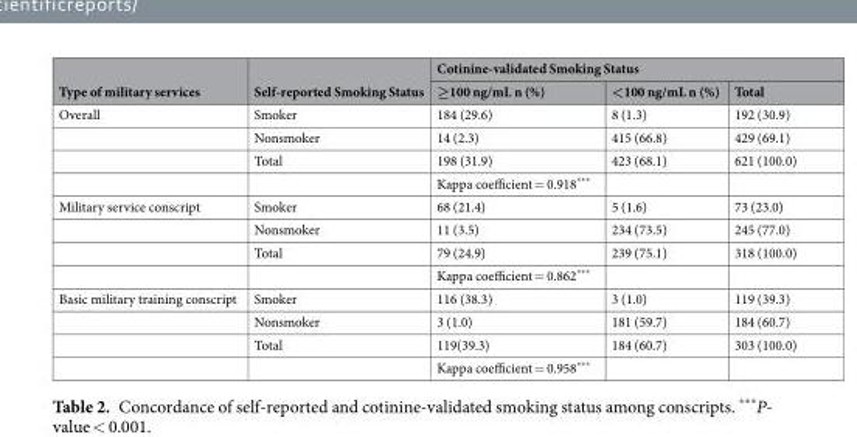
<table><thead><tr><td rowspan="2">Type of military services</td><td rowspan="2">Self-reported Smoking Status</td><td colspan="3">Cotinine-validated Smoking Status</td></tr><tr><td>≥100 ng/mL n (%)</td><td>&lt;100 ng/mL n (%)</td><td>Total</td></tr></thead><tbody><tr><td rowspan="4">Overall</td><td>Smoker</td><td>184 (29.6)</td><td>8 (1.3)</td><td>192 (30.9)</td></tr><tr><td>Nonsmoker</td><td>14 (2.3)</td><td>415 (66.8)</td><td>429 (69.1)</td></tr><tr><td>Total</td><td>198 (31.9)</td><td>423 (68.1)</td><td>621 (100.0)</td></tr><tr><td></td><td>Kappa coefficient = 0.918***</td><td></td><td></td></tr><tr><td rowspan="4">Military service conscript</td><td>Smoker</td><td>68 (21.4)</td><td>5 (1.6)</td><td>73 (23.0)</td></tr><tr><td>Nonsmoker</td><td>11 (3.5)</td><td>234 (73.5)</td><td>245 (77.0)</td></tr><tr><td>Total</td><td>79 (24.9)</td><td>239 (75.1)</td><td>318 (100.0)</td></tr><tr><td></td><td>Kappa coefficient = 0.862***</td><td></td><td></td></tr><tr><td rowspan="4">Basic military training conscript</td><td>Smoker</td><td>116 (38.3)</td><td>3 (1.0)</td><td>119 (39.3)</td></tr><tr><td>Nonsmoker</td><td>3 (1.0)</td><td>181 (59.7)</td><td>184 (60.7)</td></tr><tr><td>Total</td><td>119(39.3)</td><td>184 (60.7)</td><td>303 (100.0)</td></tr><tr><td></td><td>Kappa coefficient = 0.958***</td><td></td><td></td></tr></tbody></table>